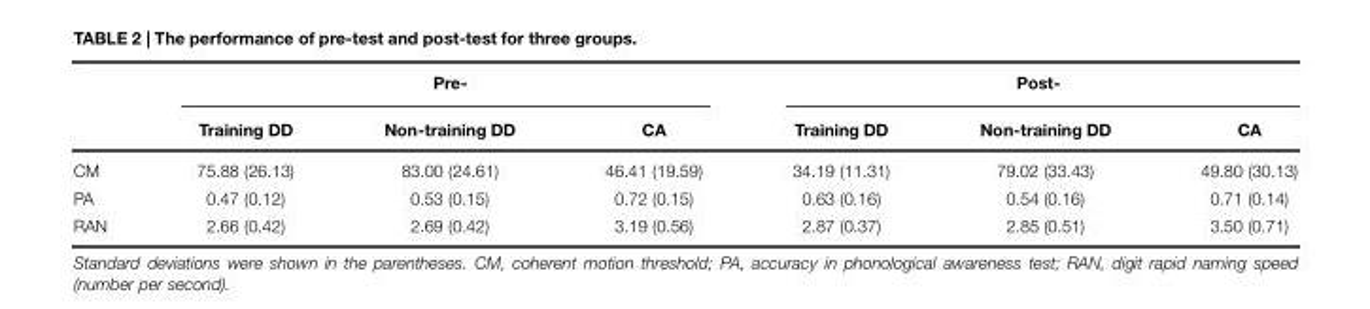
<table><thead><tr><td rowspan="2"></td><td colspan="3">Pre-</td><td colspan="3">Post-</td></tr><tr><td>Training DD</td><td>Non-training DD</td><td>CA</td><td>Training DD</td><td>Non-training DD</td><td>CA</td></tr></thead><tbody><tr><td>CM</td><td>75.88 (26.13)</td><td>83.00 (24.61)</td><td>46.41 (19.59)</td><td>34.19 (11.31)</td><td>79.02 (33.43)</td><td>49.80 (30.13)</td></tr><tr><td>PA</td><td>0.47 (0.12)</td><td>0.53 (0.15)</td><td>0.72 (0.15)</td><td>0.63 (0.16)</td><td>0.54 (0.16)</td><td>0.71 (0.14)</td></tr><tr><td>RAN</td><td>2.66 (0.42)</td><td>2.69 (0.42)</td><td>3.19 (0.56)</td><td>2.87 (0.37)</td><td>2.85 (0.51)</td><td>3.50 (0.71)</td></tr></tbody></table>